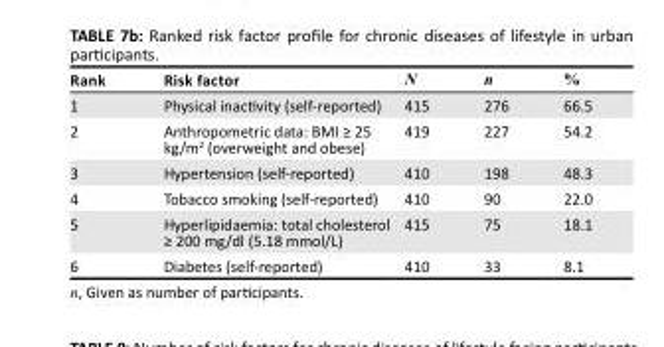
<table><thead><tr><td>Rank</td><td>Risk factor</td><td>N</td><td>n</td><td>%</td></tr></thead><tbody><tr><td>1</td><td>Physical inactivity (self-reported)</td><td>415</td><td>276</td><td>66.5</td></tr><tr><td>2</td><td>Anthropometric data: BMI ≥ 25 kg/m<sup>2</sup> (overweight and obese)</td><td>419</td><td>227</td><td>54.2</td></tr><tr><td>3</td><td>Hypertension (self-reported)</td><td>410</td><td>198</td><td>48.3</td></tr><tr><td>4</td><td>Tobacco smoking (self-reported)</td><td>410</td><td>90</td><td>22.0</td></tr><tr><td>5</td><td>Hyperlipidaemia: total cholesterol ≥ 200 mg/dl (5.18 mmol/L)</td><td>415</td><td>75</td><td>18.1</td></tr><tr><td>6</td><td>Diabetes (self-reported)</td><td>410</td><td>33</td><td>8.1</td></tr></tbody></table>